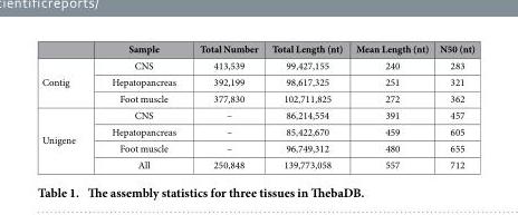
<table><thead><tr><td></td><td>Sample</td><td>Total Number</td><td>Total Length (nt)</td><td>Mean Length (nt)</td><td>N50 (nt)</td></tr></thead><tbody><tr><td rowspan="3">Contig</td><td>CNS</td><td>413,539</td><td>99,427,155</td><td>240</td><td>283</td></tr><tr><td>Hepatopancreas</td><td>392,199</td><td>98,617,325</td><td>251</td><td>321</td></tr><tr><td>Foot muscle</td><td>377,830</td><td>102,711,825</td><td>272</td><td>362</td></tr><tr><td rowspan="4">Unigene</td><td>CNS</td><td>–</td><td>86,214,554</td><td>391</td><td>457</td></tr><tr><td>Hepatopancreas</td><td>–</td><td>85,422,670</td><td>459</td><td>605</td></tr><tr><td>Foot muscle</td><td>–</td><td>96,749,312</td><td>480</td><td>655</td></tr><tr><td>All</td><td>250,848</td><td>139,773,058</td><td>557</td><td>712</td></tr></tbody></table>